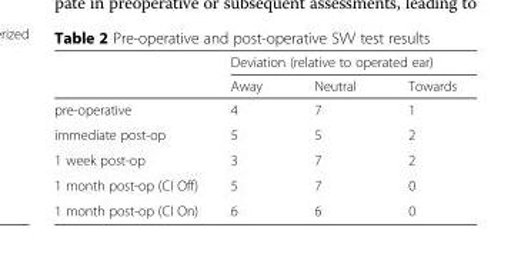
<table><thead><tr><td rowspan="2"></td><td colspan="3">Deviation (relative to operated ear)</td></tr><tr><td>Away</td><td>Neutral</td><td>Towards</td></tr></thead><tbody><tr><td>pre-operative</td><td>4</td><td>7</td><td>1</td></tr><tr><td>immediate post-op</td><td>5</td><td>5</td><td>2</td></tr><tr><td>1 week post-op</td><td>3</td><td>7</td><td>2</td></tr><tr><td>1 month post-op (CI Off)</td><td>5</td><td>7</td><td>0</td></tr><tr><td>1 month post-op (CI On)</td><td>6</td><td>6</td><td>0</td></tr></tbody></table>